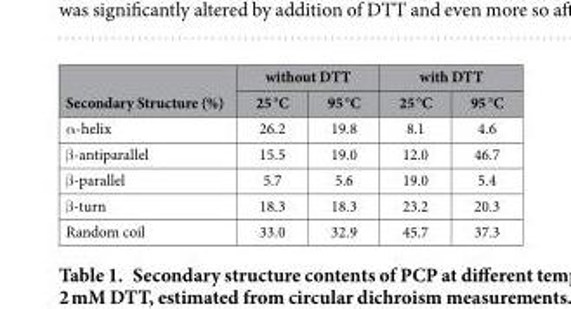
<table><thead><tr><td rowspan="2">Secondary Structure (%)</td><td colspan="2">without DTT</td><td colspan="2">with DTT</td></tr><tr><td>25 °C</td><td>95 °C</td><td>25 °C</td><td>95 °C</td></tr></thead><tbody><tr><td>α -helix</td><td>26.2</td><td>19.8</td><td>8.1</td><td>4.6</td></tr><tr><td>β -antiparallel</td><td>15.5</td><td>19.0</td><td>12.0</td><td>46.7</td></tr><tr><td>β -parallel</td><td>5.7</td><td>5.6</td><td>19.0</td><td>5.4</td></tr><tr><td>β -turn</td><td>18.3</td><td>18.3</td><td>23.2</td><td>20.3</td></tr><tr><td>Random coil</td><td>33.0</td><td>32.9</td><td>45.7</td><td>37.3</td></tr></tbody></table>